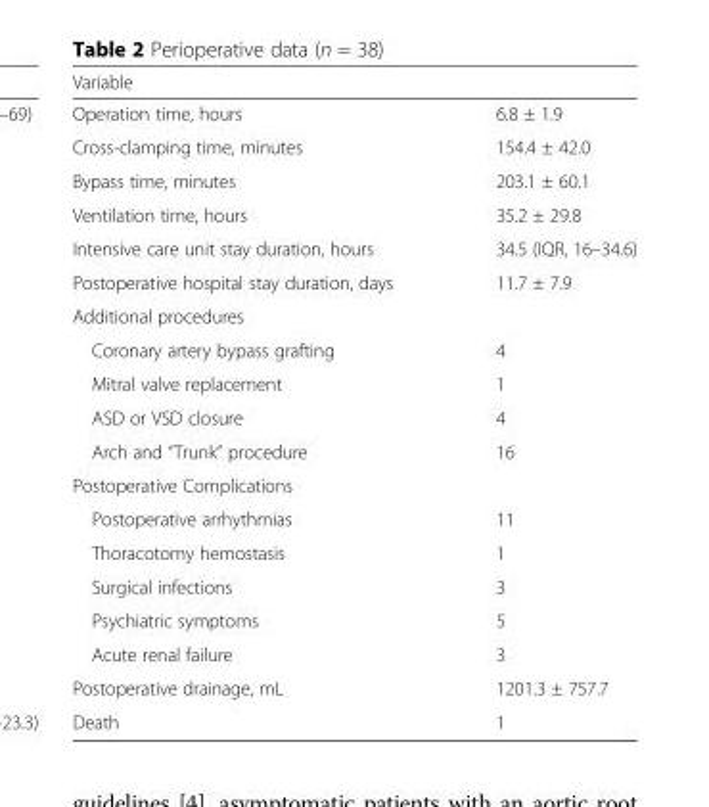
<table><thead><tr><td>Variable</td><td></td></tr></thead><tbody><tr><td>Operation time, hours</td><td>6.8 ± 1.9</td></tr><tr><td>Cross-clamping time, minutes</td><td>154.4 ± 42.0</td></tr><tr><td>Bypass time, minutes</td><td>203.1 ± 60.1</td></tr><tr><td>Ventilation time, hours</td><td>35.2 ± 29.8</td></tr><tr><td>Intensive care unit stay duration, hours</td><td>34.5 (IQR, 16–34.6)</td></tr><tr><td>Postoperative hospital stay duration, days</td><td>11.7 ± 7.9</td></tr><tr><td colspan="2">Additional procedures</td></tr><tr><td>Coronary artery bypass grafting</td><td>4</td></tr><tr><td>Mitral valve replacement</td><td>1</td></tr><tr><td>ASD or VSD closure</td><td>4</td></tr><tr><td>Arch and “Trunk” procedure</td><td>16</td></tr><tr><td colspan="2">Postoperative Complications</td></tr><tr><td>Postoperative arrhythmias</td><td>11</td></tr><tr><td>Thoracotomy hemostasis</td><td>1</td></tr><tr><td>Surgical infections</td><td>3</td></tr><tr><td>Psychiatric symptoms</td><td>5</td></tr><tr><td>Acute renal failure</td><td>3</td></tr><tr><td>Postoperative drainage, mL</td><td>1201.3 ± 757.7</td></tr><tr><td>Death</td><td>1</td></tr></tbody></table>